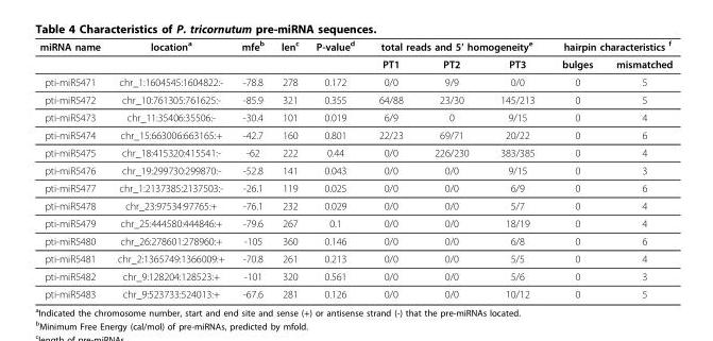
<table><thead><tr><td rowspan="2">miRNA name</td><td rowspan="2">location<sup>a</sup></td><td rowspan="2">mfe<sup>b</sup></td><td rowspan="2">len<sup>c</sup></td><td rowspan="2">P-value<sup>d</sup></td><td colspan="3">total reads and 5’ homogeneity<sup>e</sup></td><td colspan="2">hairpin characteristics <sup>f</sup></td></tr><tr><td>PT1</td><td>PT2</td><td>PT3</td><td>bulges</td><td>mismatched</td></tr></thead><tbody><tr><td>pti-miR5471</td><td>chr_1:1604545:1604822:-</td><td>-78.8</td><td>278</td><td>0.172</td><td>0/0</td><td>9/9</td><td>0/0</td><td>0</td><td>5</td></tr><tr><td>pti-miR5472</td><td>chr_10:761305:761625:-</td><td>-85.9</td><td>321</td><td>0.355</td><td>64/88</td><td>23/30</td><td>145/213</td><td>0</td><td>5</td></tr><tr><td>pti-miR5473</td><td>chr_11:35406:35506:-</td><td>-30.4</td><td>101</td><td>0.019</td><td>6/9</td><td>0</td><td>9/15</td><td>0</td><td>4</td></tr><tr><td>pti-miR5474</td><td>chr_15:663006:663165:+</td><td>-42.7</td><td>160</td><td>0.801</td><td>22/23</td><td>69/71</td><td>20/22</td><td>0</td><td>6</td></tr><tr><td>pti-miR5475</td><td>chr_18:415320:415541:-</td><td>-62</td><td>222</td><td>0.44</td><td>0/0</td><td>226/230</td><td>383/385</td><td>0</td><td>4</td></tr><tr><td>pti-miR5476</td><td>chr_19:299730:299870:-</td><td>-52.8</td><td>141</td><td>0.043</td><td>0/0</td><td>0/0</td><td>9/15</td><td>0</td><td>3</td></tr><tr><td>pti-miR5477</td><td>chr_1:2137385:2137503:-</td><td>-26.1</td><td>119</td><td>0.025</td><td>0/0</td><td>0/0</td><td>6/9</td><td>0</td><td>6</td></tr><tr><td>pti-miR5478</td><td>chr_23:97534:97765:+</td><td>-76.1</td><td>232</td><td>0.029</td><td>0/0</td><td>0/0</td><td>5/7</td><td>0</td><td>4</td></tr><tr><td>pti-miR5479</td><td>chr_25:444580:444846:+</td><td>-79.6</td><td>267</td><td>0.1</td><td>0/0</td><td>0/0</td><td>18/19</td><td>0</td><td>4</td></tr><tr><td>pti-miR5480</td><td>chr_26:278601:278960:+</td><td>-105</td><td>360</td><td>0.146</td><td>0/0</td><td>0/0</td><td>6/8</td><td>0</td><td>6</td></tr><tr><td>pti-miR5481</td><td>chr_2:1365749:1366009:+</td><td>-70.8</td><td>261</td><td>0.213</td><td>0/0</td><td>0/0</td><td>5/5</td><td>0</td><td>4</td></tr><tr><td>pti-miR5482</td><td>chr_9:128204:128523:+</td><td>-101</td><td>320</td><td>0.561</td><td>0/0</td><td>0/0</td><td>5/6</td><td>0</td><td>3</td></tr><tr><td>pti-miR5483</td><td>chr_9:523733:524013:+</td><td>-67.6</td><td>281</td><td>0.126</td><td>0/0</td><td>0/0</td><td>10/12</td><td>0</td><td>5</td></tr></tbody></table>